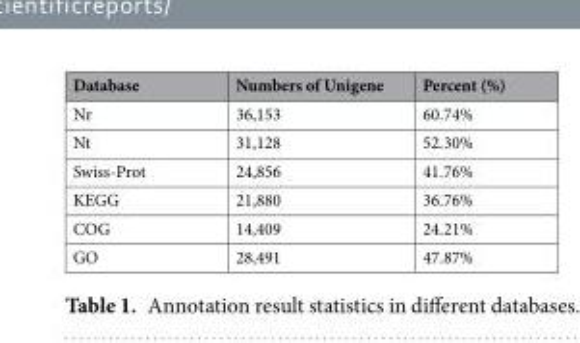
<table><thead><tr><td>Database</td><td>Numbers of Unigene</td><td>Percent (%)</td></tr></thead><tbody><tr><td>Nr</td><td>36,153</td><td>60.74%</td></tr><tr><td>Nt</td><td>31,128</td><td>52.30%</td></tr><tr><td>Swiss-Prot</td><td>24,856</td><td>41.76%</td></tr><tr><td>KEGG</td><td>21,880</td><td>36.76%</td></tr><tr><td>COG</td><td>14,409</td><td>24.21%</td></tr><tr><td>GO</td><td>28,491</td><td>47.87%</td></tr></tbody></table>